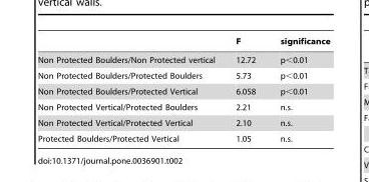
<table><thead><tr><td></td><td>F</td><td>significance</td></tr></thead><tbody><tr><td>Non Protected Boulders/Non Protected vertical</td><td>12.72</td><td>p&lt;0.01</td></tr><tr><td>Non Protected Boulders/Protected Boulders</td><td>5.73</td><td>p&lt;0.01</td></tr><tr><td>Non Protected Boulders/Protected Vertical</td><td>6.058</td><td>p&lt;0.01</td></tr><tr><td>Non Protected Vertical/Protected Boulders</td><td>2.21</td><td>n.s.</td></tr><tr><td>Non Protected Vertical/Protected Vertical</td><td>2.10</td><td>n.s.</td></tr><tr><td>Protected Boulders/Protected Vertical</td><td>1.05</td><td>n.s.</td></tr></tbody></table>